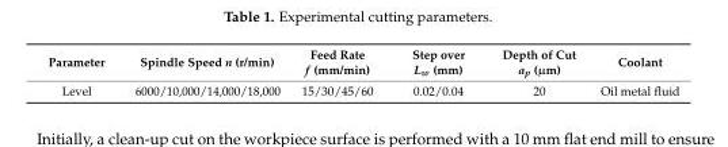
<table><thead><tr><td>Parameter</td><td>Spindle Speed n (r/min)</td><td>Feed Rate f (mm/min)</td><td>Step over L<sub>w</sub> (mm)</td><td>Depth of Cut a<sub>p</sub> (µm)</td><td>Coolant</td></tr></thead><tbody><tr><td>Level</td><td>6000/10,000/14,000/18,000</td><td>15/30/45/60</td><td>0.02/0.04</td><td>20</td><td>Oil metal fluid</td></tr></tbody></table>